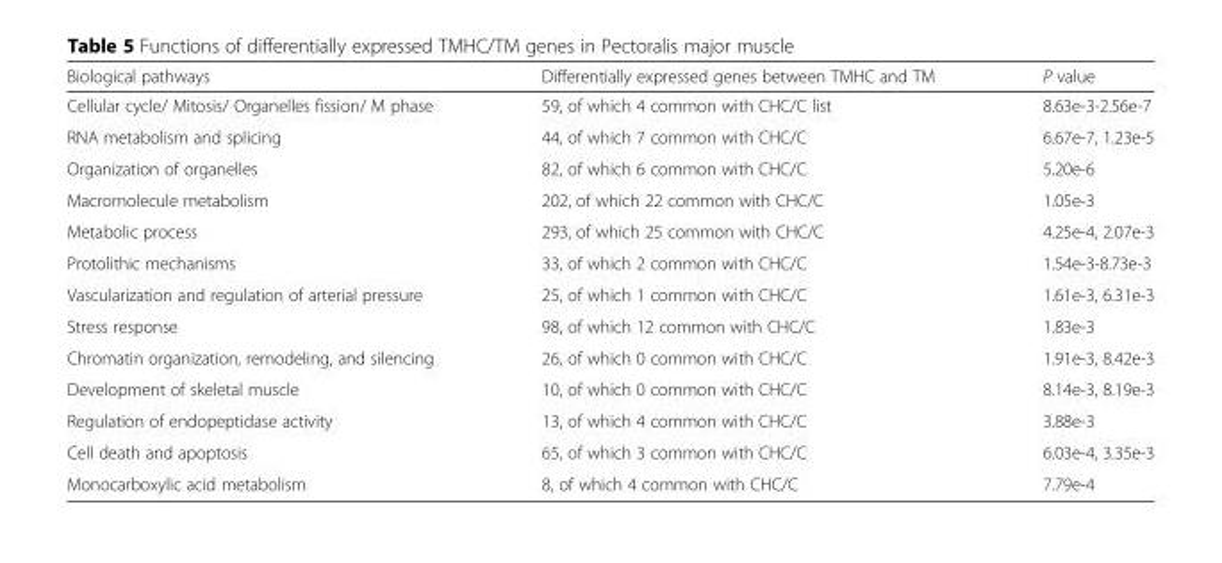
<table><thead><tr><td>Biological pathways</td><td>Differentially expressed genes between TMHC and TM</td><td>P value</td></tr></thead><tbody><tr><td>Cellular cycle/ Mitosis/ Organelles fission/ M phase</td><td>59, of which 4 common with CHC/C list</td><td>8.63e-3-2.56e-7</td></tr><tr><td>RNA metabolism and splicing</td><td>44, of which 7 common with CHC/C</td><td>6.67e-7, 1.23e-5</td></tr><tr><td>Organization of organelles</td><td>82, of which 6 common with CHC/C</td><td>5.20e-6</td></tr><tr><td>Macromolecule metabolism</td><td>202, of which 22 common with CHC/C</td><td>1.05e-3</td></tr><tr><td>Metabolic process</td><td>293, of which 25 common with CHC/C</td><td>4.25e-4, 2.07e-3</td></tr><tr><td>Protolithic mechanisms</td><td>33, of which 2 common with CHC/C</td><td>1.54e-3-8.73e-3</td></tr><tr><td>Vascularization and regulation of arterial pressure</td><td>25, of which 1 common with CHC/C</td><td>1.61e-3, 6.31e-3</td></tr><tr><td>Stress response</td><td>98, of which 12 common with CHC/C</td><td>1.83e-3</td></tr><tr><td>Chromatin organization, remodeling, and silencing</td><td>26, of which 0 common with CHC/C</td><td>1.91e-3, 8.42e-3</td></tr><tr><td>Development of skeletal muscle</td><td>10, of which 0 common with CHC/C</td><td>8.14e-3, 8.19e-3</td></tr><tr><td>Regulation of endopeptidase activity</td><td>13, of which 4 common with CHC/C</td><td>3.88e-3</td></tr><tr><td>Cell death and apoptosis</td><td>65, of which 3 common with CHC/C</td><td>6.03e-4, 3.35e-3</td></tr><tr><td>Monocarboxylic acid metabolism</td><td>8, of which 4 common with CHC/C</td><td>7.79e-4</td></tr></tbody></table>